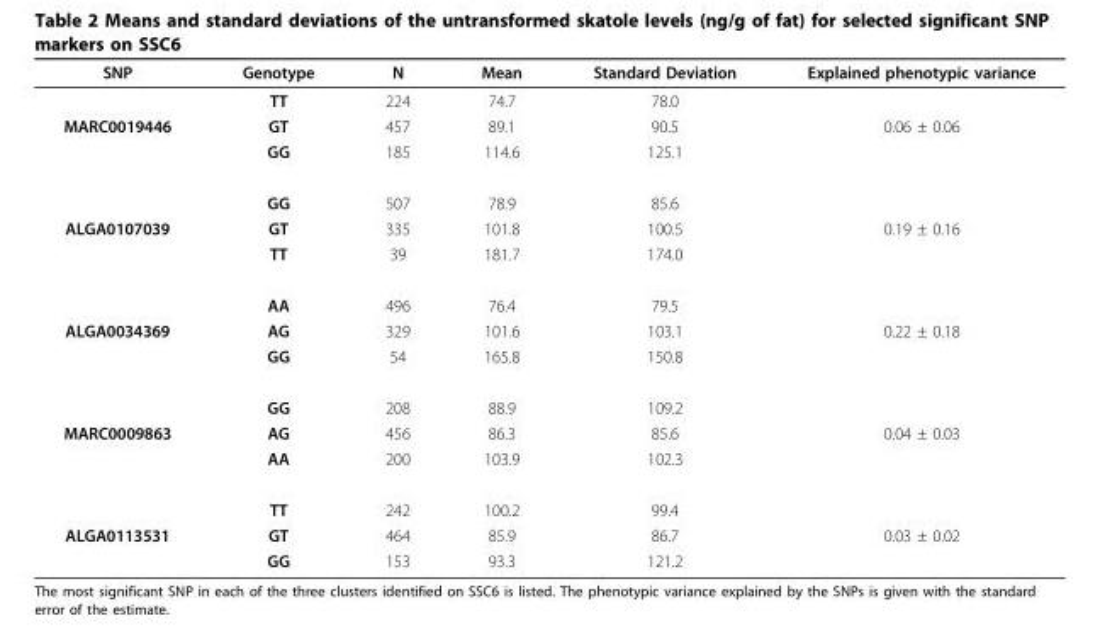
<table><thead><tr><td>SNP</td><td>Genotype</td><td>N</td><td>Mean</td><td>Standard Deviation</td><td>Explained phenotypic variance</td></tr></thead><tbody><tr><td></td><td>TT</td><td>224</td><td>74.7</td><td>78.0</td><td></td></tr><tr><td rowspan="3">MARC0019446</td><td>GT</td><td>457</td><td>89.1</td><td>90.5</td><td>0.06 ± 0.06</td></tr><tr><td>GG</td><td>185</td><td>114.6</td><td>125.1</td><td></td></tr><tr><td>GG</td><td>507</td><td>78.9</td><td>85.6</td><td></td></tr><tr><td rowspan="3">ALGA0107039</td><td>GT</td><td>335</td><td>101.8</td><td>100.5</td><td>0.19 ± 0.16</td></tr><tr><td>TT</td><td>39</td><td>181.7</td><td>174.0</td><td></td></tr><tr><td>AA</td><td>496</td><td>76.4</td><td>79.5</td><td></td></tr><tr><td rowspan="3">ALGA0034369</td><td>AG</td><td>329</td><td>101.6</td><td>103.1</td><td>0.22 ± 0.18</td></tr><tr><td>GG</td><td>54</td><td>165.8</td><td>150.8</td><td></td></tr><tr><td>GG</td><td>208</td><td>88.9</td><td>109.2</td><td></td></tr><tr><td rowspan="3">MARC0009863</td><td>AG</td><td>456</td><td>86.3</td><td>85.6</td><td>0.04 ± 0.03</td></tr><tr><td>AA</td><td>200</td><td>103.9</td><td>102.3</td><td></td></tr><tr><td>TT</td><td>242</td><td>100.2</td><td>99.4</td><td></td></tr><tr><td rowspan="2">ALGA0113531</td><td>GT</td><td>464</td><td>85.9</td><td>86.7</td><td>0.03 ± 0.02</td></tr><tr><td>GG</td><td>153</td><td>93.3</td><td>121.2</td><td></td></tr></tbody></table>